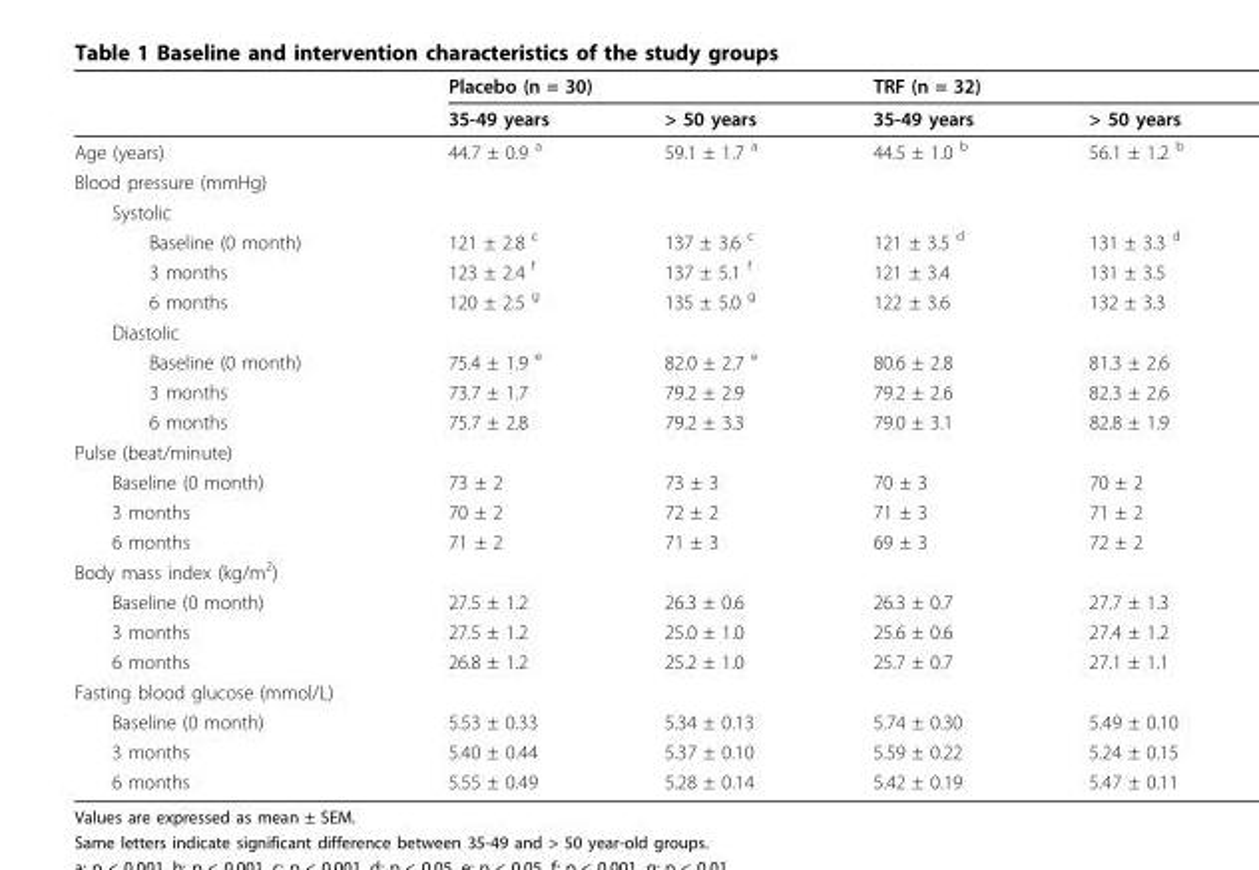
<table><thead><tr><td rowspan="2"></td><td colspan="2">Placebo (n = 30)</td><td colspan="2">TRF (n = 32)</td></tr><tr><td>35-49 years</td><td>&gt; 50 years</td><td>35-49 years</td><td>&gt; 50 years</td></tr></thead><tbody><tr><td>Age (years)</td><td>44.7 ± 0.9 <sup>a</sup></td><td>59.1 ± 1.7 <sup>a</sup></td><td>44.5 ± 1.0 <sup>b</sup></td><td>56.1 ± 1.2 <sup>b</sup></td></tr><tr><td colspan="5">Blood pressure (mmHg)</td></tr><tr><td colspan="5">Systolic</td></tr><tr><td>Baseline (0 month)</td><td>121 ± 2.8 <sup>c</sup></td><td>137 ± 3.6 <sup>c</sup></td><td>121 ± 3.5 <sup>d</sup></td><td>131 ± 3.3 <sup>d</sup></td></tr><tr><td>3 months</td><td>123 ± 2.4 <sup>f</sup></td><td>137 ± 5.1 <sup>f</sup></td><td>121 ± 3.4</td><td>131 ± 3.5</td></tr><tr><td>6 months</td><td>120 ± 2.5 <sup>g</sup></td><td>135 ± 5.0 <sup>g</sup></td><td>122 ± 3.6</td><td>132 ± 3.3</td></tr><tr><td colspan="5">Diastolic</td></tr><tr><td>Baseline (0 month)</td><td>75.4 ± 1.9 <sup>e</sup></td><td>82.0 ± 2.7 <sup>e</sup></td><td>80.6 ± 2.8</td><td>81.3 ± 2.6</td></tr><tr><td>3 months</td><td>73.7 ± 1.7</td><td>79.2 ± 2.9</td><td>79.2 ± 2.6</td><td>82.3 ± 2.6</td></tr><tr><td>6 months</td><td>75.7 ± 2.8</td><td>79.2 ± 3.3</td><td>79.0 ± 3.1</td><td>82.8 ± 1.9</td></tr><tr><td colspan="5">Pulse (beat/minute)</td></tr><tr><td>Baseline (0 month)</td><td>73 ± 2</td><td>73 ± 3</td><td>70 ± 3</td><td>70 ± 2</td></tr><tr><td>3 months</td><td>70 ± 2</td><td>72 ± 2</td><td>71 ± 3</td><td>71 ± 2</td></tr><tr><td>6 months</td><td>71 ± 2</td><td>71 ± 3</td><td>69 ± 3</td><td>72 ± 2</td></tr><tr><td colspan="5">Body mass index (kg/m<sup>2</sup>)</td></tr><tr><td>Baseline (0 month)</td><td>27.5 ± 1.2</td><td>26.3 ± 0.6</td><td>26.3 ± 0.7</td><td>27.7 ± 1.3</td></tr><tr><td>3 months</td><td>27.5 ± 1.2</td><td>25.0 ± 1.0</td><td>25.6 ± 0.6</td><td>27.4 ± 1.2</td></tr><tr><td>6 months</td><td>26.8 ± 1.2</td><td>25.2 ± 1.0</td><td>25.7 ± 0.7</td><td>27.1 ± 1.1</td></tr><tr><td colspan="5">Fasting blood glucose (mmol/L)</td></tr><tr><td>Baseline (0 month)</td><td>5.53 ± 0.33</td><td>5.34 ± 0.13</td><td>5.74 ± 0.30</td><td>5.49 ± 0.10</td></tr><tr><td>3 months</td><td>5.40 ± 0.44</td><td>5.37 ± 0.10</td><td>5.59 ± 0.22</td><td>5.24 ± 0.15</td></tr><tr><td>6 months</td><td>5.55 ± 0.49</td><td>5.28 ± 0.14</td><td>5.42 ± 0.19</td><td>5.47 ± 0.11</td></tr></tbody></table>